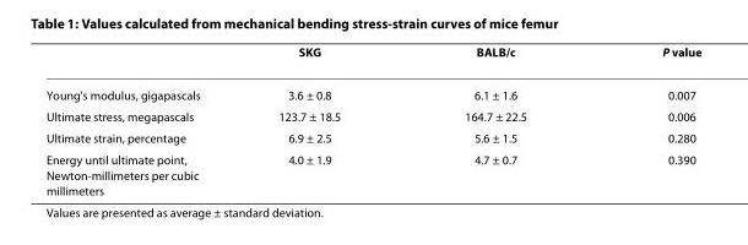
<table><thead><tr><td></td><td>SKG</td><td>BALB/c</td><td>P value</td></tr></thead><tbody><tr><td>Young&#x27;s modulus, gigapascals</td><td>3.6 ± 0.8</td><td>6.1 ± 1.6</td><td>0.007</td></tr><tr><td>Ultimate stress, megapascals</td><td>123.7 ± 18.5</td><td>164.7 ± 22.5</td><td>0.006</td></tr><tr><td>Ultimate strain, percentage</td><td>6.9 ± 2.5</td><td>5.6 ± 1.5</td><td>0.280</td></tr><tr><td>Energy until ultimate point, Newton-millimeters per cubic millimeters</td><td>4.0 ± 1.9</td><td>4.7 ± 0.7</td><td>0.390</td></tr></tbody></table>